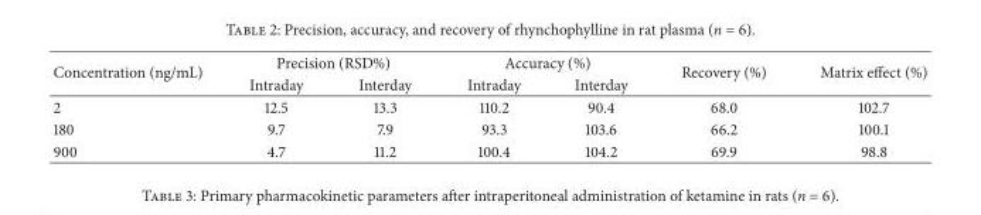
<table><thead><tr><td rowspan="2">Concentration (ng/mL)</td><td colspan="2">Precision (RSD%)</td><td colspan="2">Accuracy (%)</td><td rowspan="2">Recovery (%)</td><td rowspan="2">Matrix effect (%)</td></tr><tr><td>Intraday</td><td>Interday</td><td>Intraday</td><td>Interday</td></tr></thead><tbody><tr><td>2</td><td>12.5</td><td>13.3</td><td>110.2</td><td>90.4</td><td>68.0</td><td>102.7</td></tr><tr><td>180</td><td>9.7</td><td>7.9</td><td>93.3</td><td>103.6</td><td>66.2</td><td>100.1</td></tr><tr><td>900</td><td>4.7</td><td>11.2</td><td>100.4</td><td>104.2</td><td>69.9</td><td>98.8</td></tr></tbody></table>